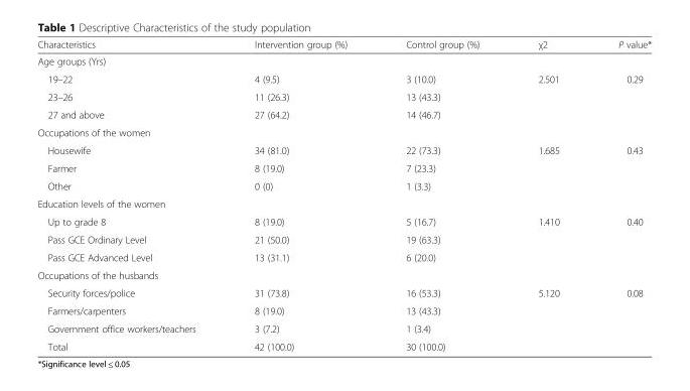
<table><thead><tr><td>Characteristics</td><td>Intervention group (%)</td><td>Control group (%)</td><td>χ2</td><td>P value*</td></tr></thead><tbody><tr><td colspan="5">Age groups (Yrs)</td></tr><tr><td>19–22</td><td>4 (9.5)</td><td>3 (10.0)</td><td rowspan="3">2.501</td><td rowspan="3">0.29</td></tr><tr><td>23–26</td><td>11 (26.3)</td><td>13 (43.3)</td></tr><tr><td>27 and above</td><td>27 (64.2)</td><td>14 (46.7)</td></tr><tr><td colspan="5">Occupations of the women</td></tr><tr><td>Housewife</td><td>34 (81.0)</td><td>22 (73.3)</td><td rowspan="3">1.685</td><td rowspan="3">0.43</td></tr><tr><td>Farmer</td><td>8 (19.0)</td><td>7 (23.3)</td></tr><tr><td>Other</td><td>0 (0)</td><td>1 (3.3)</td></tr><tr><td colspan="5">Education levels of the women</td></tr><tr><td>Up to grade 8</td><td>8 (19.0)</td><td>5 (16.7)</td><td rowspan="3">1.410</td><td rowspan="3">0.40</td></tr><tr><td>Pass GCE Ordinary Level</td><td>21 (50.0)</td><td>19 (63.3)</td></tr><tr><td>Pass GCE Advanced Level</td><td>13 (31.1)</td><td>6 (20.0)</td></tr><tr><td colspan="5">Occupations of the husbands</td></tr><tr><td>Security forces/police</td><td>31 (73.8)</td><td>16 (53.3)</td><td rowspan="4">5.120</td><td rowspan="4">0.08</td></tr><tr><td>Farmers/carpenters</td><td>8 (19.0)</td><td>13 (43.3)</td></tr><tr><td>Government office workers/teachers</td><td>3 (7.2)</td><td>1 (3.4)</td></tr><tr><td>Total</td><td>42 (100.0)</td><td>30 (100.0)</td></tr></tbody></table>